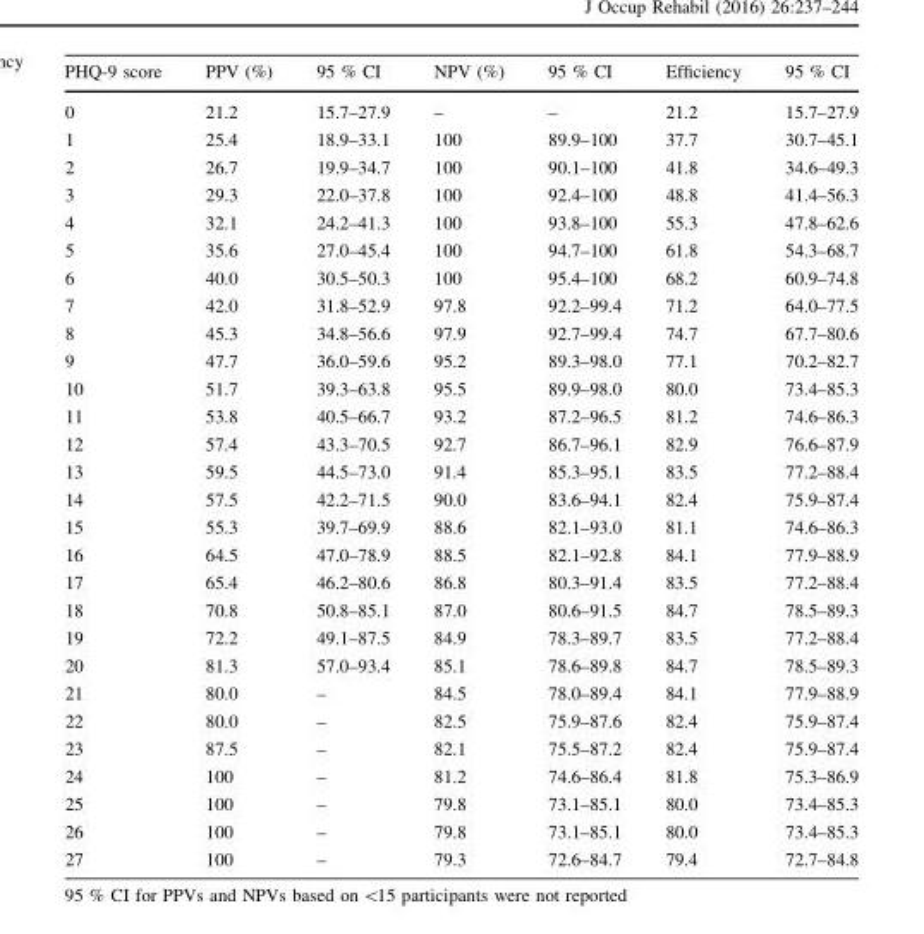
<table><thead><tr><td>PHQ-9 score</td><td>PPV (%)</td><td>95 % CI</td><td>NPV (%)</td><td>95 % CI</td><td>Efficiency</td><td>95 % CI</td></tr></thead><tbody><tr><td>0</td><td>21.2</td><td>15.7–27.9</td><td>–</td><td>–</td><td>21.2</td><td>15.7–27.9</td></tr><tr><td>1</td><td>25.4</td><td>18.9–33.1</td><td>100</td><td>89.9–100</td><td>37.7</td><td>30.7–45.1</td></tr><tr><td>2</td><td>26.7</td><td>19.9–34.7</td><td>100</td><td>90.1–100</td><td>41.8</td><td>34.6–49.3</td></tr><tr><td>3</td><td>29.3</td><td>22.0–37.8</td><td>100</td><td>92.4–100</td><td>48.8</td><td>41.4–56.3</td></tr><tr><td>4</td><td>32.1</td><td>24.2–41.3</td><td>100</td><td>93.8–100</td><td>55.3</td><td>47.8–62.6</td></tr><tr><td>5</td><td>35.6</td><td>27.0–45.4</td><td>100</td><td>94.7–100</td><td>61.8</td><td>54.3–68.7</td></tr><tr><td>6</td><td>40.0</td><td>30.5–50.3</td><td>100</td><td>95.4–100</td><td>68.2</td><td>60.9–74.8</td></tr><tr><td>7</td><td>42.0</td><td>31.8–52.9</td><td>97.8</td><td>92.2–99.4</td><td>71.2</td><td>64.0–77.5</td></tr><tr><td>8</td><td>45.3</td><td>34.8–56.6</td><td>97.9</td><td>92.7–99.4</td><td>74.7</td><td>67.7–80.6</td></tr><tr><td>9</td><td>47.7</td><td>36.0–59.6</td><td>95.2</td><td>89.3–98.0</td><td>77.1</td><td>70.2–82.7</td></tr><tr><td>10</td><td>51.7</td><td>39.3–63.8</td><td>95.5</td><td>89.9–98.0</td><td>80.0</td><td>73.4–85.3</td></tr><tr><td>11</td><td>53.8</td><td>40.5–66.7</td><td>93.2</td><td>87.2–96.5</td><td>81.2</td><td>74.6–86.3</td></tr><tr><td>12</td><td>57.4</td><td>43.3–70.5</td><td>92.7</td><td>86.7–96.1</td><td>82.9</td><td>76.6–87.9</td></tr><tr><td>13</td><td>59.5</td><td>44.5–73.0</td><td>91.4</td><td>85.3–95.1</td><td>83.5</td><td>77.2–88.4</td></tr><tr><td>14</td><td>57.5</td><td>42.2–71.5</td><td>90.0</td><td>83.6–94.1</td><td>82.4</td><td>75.9–87.4</td></tr><tr><td>15</td><td>55.3</td><td>39.7–69.9</td><td>88.6</td><td>82.1–93.0</td><td>81.1</td><td>74.6–86.3</td></tr><tr><td>16</td><td>64.5</td><td>47.0–78.9</td><td>88.5</td><td>82.1–92.8</td><td>84.1</td><td>77.9–88.9</td></tr><tr><td>17</td><td>65.4</td><td>46.2–80.6</td><td>86.8</td><td>80.3–91.4</td><td>83.5</td><td>77.2–88.4</td></tr><tr><td>18</td><td>70.8</td><td>50.8–85.1</td><td>87.0</td><td>80.6–91.5</td><td>84.7</td><td>78.5–89.3</td></tr><tr><td>19</td><td>72.2</td><td>49.1–87.5</td><td>84.9</td><td>78.3–89.7</td><td>83.5</td><td>77.2–88.4</td></tr><tr><td>20</td><td>81.3</td><td>57.0–93.4</td><td>85.1</td><td>78.6–89.8</td><td>84.7</td><td>78.5–89.3</td></tr><tr><td>21</td><td>80.0</td><td>–</td><td>84.5</td><td>78.0–89.4</td><td>84.1</td><td>77.9–88.9</td></tr><tr><td>22</td><td>80.0</td><td>–</td><td>82.5</td><td>75.9–87.6</td><td>82.4</td><td>75.9–87.4</td></tr><tr><td>23</td><td>87.5</td><td>–</td><td>82.1</td><td>75.5–87.2</td><td>82.4</td><td>75.9–87.4</td></tr><tr><td>24</td><td>100</td><td>–</td><td>81.2</td><td>74.6–86.4</td><td>81.8</td><td>75.3–86.9</td></tr><tr><td>25</td><td>100</td><td>–</td><td>79.8</td><td>73.1–85.1</td><td>80.0</td><td>73.4–85.3</td></tr><tr><td>26</td><td>100</td><td>–</td><td>79.8</td><td>73.1–85.1</td><td>80.0</td><td>73.4–85.3</td></tr><tr><td>27</td><td>100</td><td>–</td><td>79.3</td><td>72.6–84.7</td><td>79.4</td><td>72.7–84.8</td></tr></tbody></table>